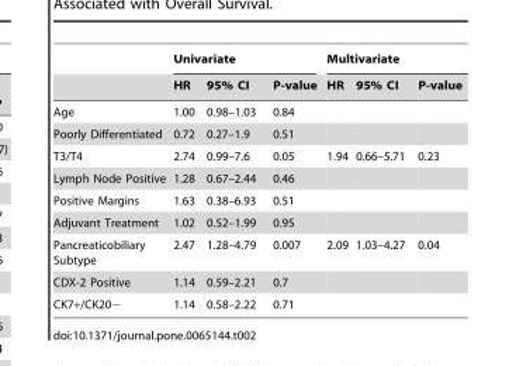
<table><thead><tr><td rowspan="2"></td><td colspan="3">Univariate</td><td colspan="3">Multivariate</td></tr><tr><td>HR</td><td>95% CI</td><td>P-value</td><td>HR</td><td>95% CI</td><td>P-value</td></tr></thead><tbody><tr><td>Age</td><td>1.00</td><td>0.98–1.03</td><td>0.84</td><td></td><td></td><td></td></tr><tr><td>Poorly Differentiated</td><td>0.72</td><td>0.27–1.9</td><td>0.51</td><td></td><td></td><td></td></tr><tr><td>T3/T4</td><td>2.74</td><td>0.99–7.6</td><td>0.05</td><td>1.94</td><td>0.66–5.71</td><td>0.23</td></tr><tr><td>Lymph Node Positive</td><td>1.28</td><td>0.67–2.44</td><td>0.46</td><td></td><td></td><td></td></tr><tr><td>Positive Margins</td><td>1.63</td><td>0.38–6.93</td><td>0.51</td><td></td><td></td><td></td></tr><tr><td>Adjuvant Treatment</td><td>1.02</td><td>0.52–1.99</td><td>0.95</td><td></td><td></td><td></td></tr><tr><td>Pancreaticobiliary Subtype</td><td>2.47</td><td>1.28–4.79</td><td>0.007</td><td>2.09</td><td>1.03–4.27</td><td>0.04</td></tr><tr><td>CDX-2 Positive</td><td>1.14</td><td>0.59–2.21</td><td>0.7</td><td></td><td></td><td></td></tr><tr><td>CK7+/CK20−</td><td>1.14</td><td>0.58–2.22</td><td>0.71</td><td></td><td></td><td></td></tr></tbody></table>